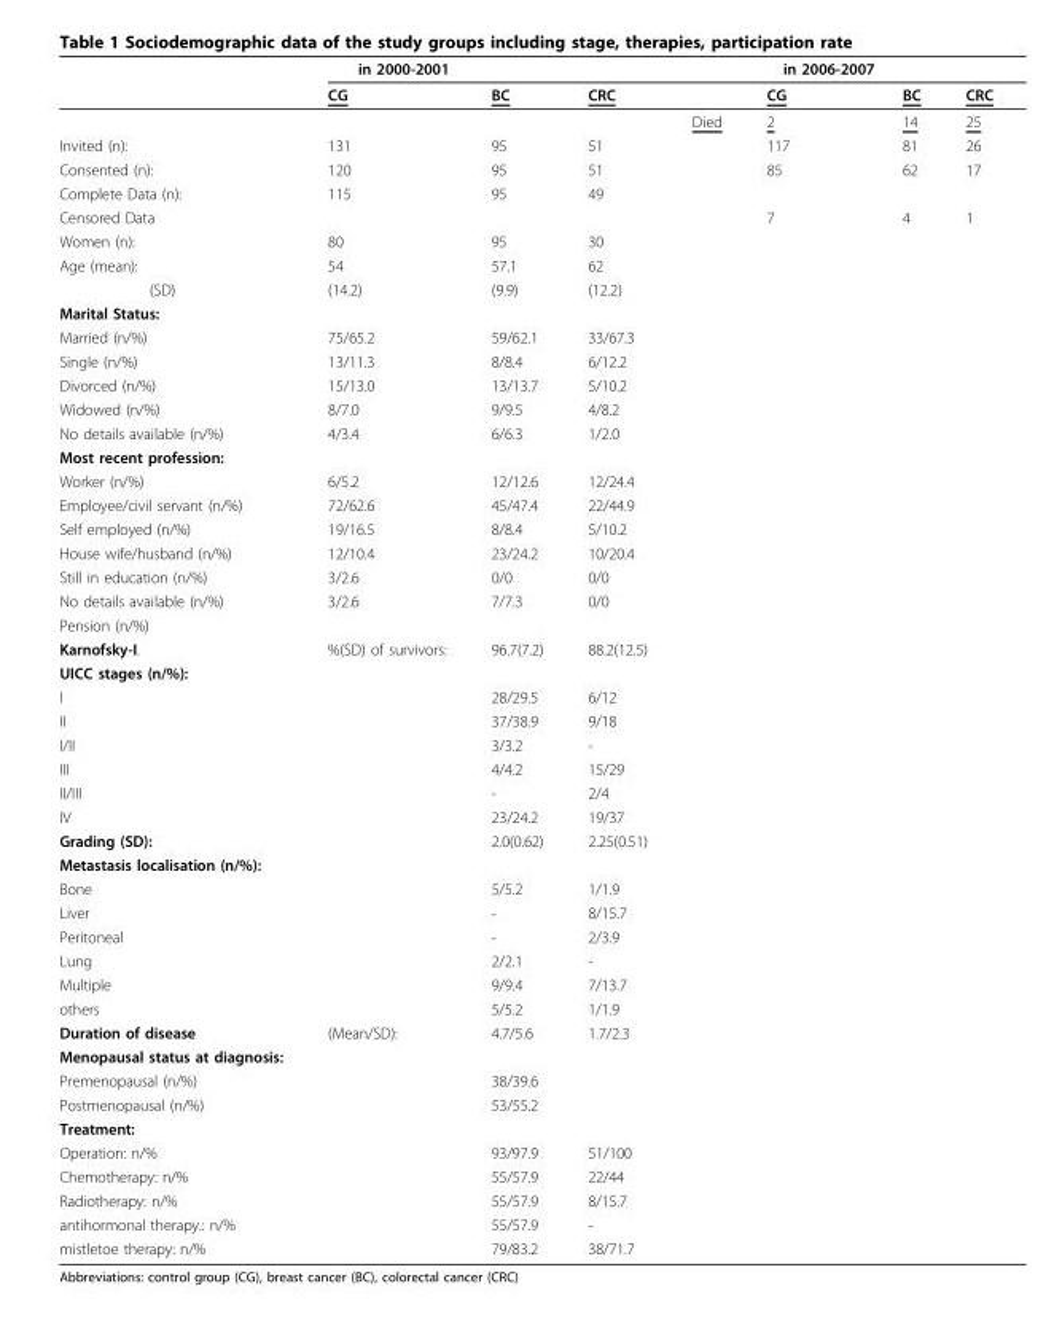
<table><thead><tr><td rowspan="2"></td><td rowspan="2">in 2000-2001 CG</td><td rowspan="2">BC</td><td rowspan="2">CRC</td><td rowspan="2"></td><td rowspan="2">in 2006-2007 CG</td><td rowspan="2">BC</td><td rowspan="2">CRC</td></tr><tr></tr></thead><tbody><tr><td></td><td></td><td></td><td></td><td>Died</td><td>2</td><td>14</td><td>25</td></tr><tr><td>Invited (n):</td><td>131</td><td>95</td><td>51</td><td></td><td>117</td><td>81</td><td>26</td></tr><tr><td>Consented (n):</td><td>120</td><td>95</td><td>51</td><td></td><td>85</td><td>62</td><td>17</td></tr><tr><td>Complete Data (n):</td><td>115</td><td>95</td><td>49</td><td></td><td></td><td></td><td></td></tr><tr><td>Censored Data</td><td></td><td></td><td></td><td></td><td>7</td><td>4</td><td>1</td></tr><tr><td>Women (n):</td><td>80</td><td>95</td><td>30</td><td></td><td></td><td></td><td></td></tr><tr><td>Age (mean):</td><td>54</td><td>57.1</td><td>62</td><td></td><td></td><td></td><td></td></tr><tr><td>(SD)</td><td>(14.2)</td><td>(9.9)</td><td>(12.2)</td><td></td><td></td><td></td><td></td></tr><tr><td colspan="8">Marital Status:</td></tr><tr><td>Married (n/%)</td><td>75/65.2</td><td>59/62.1</td><td>33/67.3</td><td></td><td></td><td></td><td></td></tr><tr><td>Single (n/%)</td><td>13/11.3</td><td>8/8.4</td><td>6/12.2</td><td></td><td></td><td></td><td></td></tr><tr><td>Divorced (n/%)</td><td>15/13.0</td><td>13/13.7</td><td>5/10.2</td><td></td><td></td><td></td><td></td></tr><tr><td>Widowed (n/%)</td><td>8/7.0</td><td>9/9.5</td><td>4/8.2</td><td></td><td></td><td></td><td></td></tr><tr><td>No details available (n/%)</td><td>4/3.4</td><td>6/6.3</td><td>1/2.0</td><td></td><td></td><td></td><td></td></tr><tr><td colspan="8">Most recent profession:</td></tr><tr><td>Worker (n/%)</td><td>6/5.2</td><td>12/12.6</td><td>12/24.4</td><td></td><td></td><td></td><td></td></tr><tr><td>Employee/civil servant (n/%)</td><td>72/62.6</td><td>45/47.4</td><td>22/44.9</td><td></td><td></td><td></td><td></td></tr><tr><td>Self employed (n/%)</td><td>19/16.5</td><td>8/8.4</td><td>5/10.2</td><td></td><td></td><td></td><td></td></tr><tr><td>House wife/husband (n/%)</td><td>12/10.4</td><td>23/24.2</td><td>10/20.4</td><td></td><td></td><td></td><td></td></tr><tr><td>Still in education (n/%)</td><td>3/2.6</td><td>0/0</td><td>0/0</td><td></td><td></td><td></td><td></td></tr><tr><td>No details available (n/%)</td><td>3/2.6</td><td>7/7.3</td><td>0/0</td><td></td><td></td><td></td><td></td></tr><tr><td colspan="8">Pension (n/%)</td></tr><tr><td>Karnofsky-I.</td><td>%(SD) of survivors:</td><td>96.7(7.2)</td><td>88.2(12.5)</td><td></td><td></td><td></td><td></td></tr><tr><td colspan="8">UICC stages (n/%):</td></tr><tr><td>I</td><td></td><td>28/29.5</td><td>6/12</td><td></td><td></td><td></td><td></td></tr><tr><td>II</td><td></td><td>37/38.9</td><td>9/18</td><td></td><td></td><td></td><td></td></tr><tr><td>I/II</td><td></td><td>3/3.2</td><td>-</td><td></td><td></td><td></td><td></td></tr><tr><td>III</td><td></td><td>4/4.2</td><td>15/29</td><td></td><td></td><td></td><td></td></tr><tr><td>II/III</td><td></td><td>-</td><td>2/4</td><td></td><td></td><td></td><td></td></tr><tr><td>IV</td><td></td><td>23/24.2</td><td>19/37</td><td></td><td></td><td></td><td></td></tr><tr><td>Grading (SD):</td><td></td><td>2.0(0.62)</td><td colspan="2">2.25(0.51)</td><td></td><td></td><td></td></tr><tr><td colspan="8">Metastasis localisation (n/%):</td></tr><tr><td>Bone</td><td></td><td>5/5.2</td><td>1/1.9</td><td></td><td></td><td></td><td></td></tr><tr><td>Liver</td><td></td><td>-</td><td>8/15.7</td><td></td><td></td><td></td><td></td></tr><tr><td>Peritoneal</td><td></td><td>-</td><td>2/3.9</td><td></td><td></td><td></td><td></td></tr><tr><td>Lung</td><td></td><td>2/2.1</td><td>-</td><td></td><td></td><td></td><td></td></tr><tr><td>Multiple</td><td></td><td>9/9.4</td><td>7/13.7</td><td></td><td></td><td></td><td></td></tr><tr><td>others</td><td></td><td>5/5.2</td><td>1/1.9</td><td></td><td></td><td></td><td></td></tr><tr><td>Duration of disease</td><td>(Mean/SD):</td><td>4.7/5.6</td><td>1.7/2.3</td><td></td><td></td><td></td><td></td></tr><tr><td colspan="8">Menopausal status at diagnosis:</td></tr><tr><td>Premenopausal (n/%)</td><td></td><td>38/39.6</td><td></td><td></td><td></td><td></td><td></td></tr><tr><td>Postmenopausal (n/%)</td><td></td><td>53/55.2</td><td></td><td></td><td></td><td></td><td></td></tr><tr><td colspan="8">Treatment:</td></tr><tr><td>Operation: n/%</td><td></td><td>93/97.9</td><td>51/100</td><td></td><td></td><td></td><td></td></tr><tr><td>Chemotherapy: n/%</td><td></td><td>55/57.9</td><td>22/44</td><td></td><td></td><td></td><td></td></tr><tr><td>Radiotherapy: n/%</td><td></td><td>55/57.9</td><td>8/15.7</td><td></td><td></td><td></td><td></td></tr><tr><td>antihormonal therapy.: n/%</td><td></td><td>55/57.9</td><td>-</td><td></td><td></td><td></td><td></td></tr><tr><td>mistletoe therapy: n/%</td><td></td><td>79/83.2</td><td>38/71.7</td><td></td><td></td><td></td><td></td></tr></tbody></table>